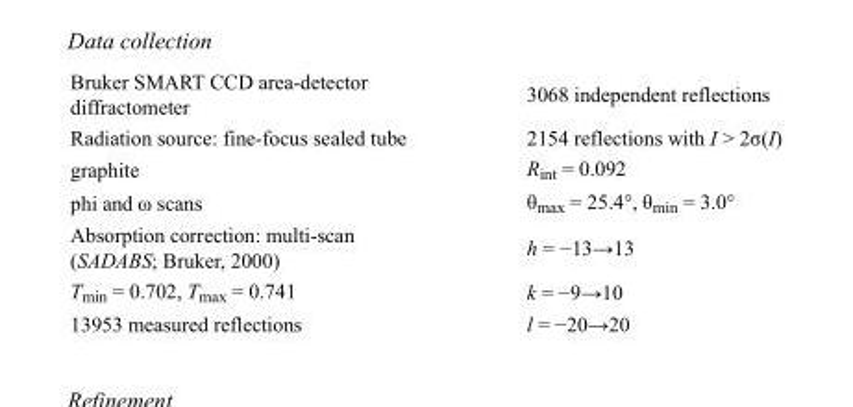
<table><tbody><tr><td>Bruker SMART CCD area-detector diffractometer</td><td>3068 independent reflections</td></tr><tr><td>Radiation source: fine-focus sealed tube</td><td>2154 reflections with I &gt; 2σ(I)</td></tr><tr><td>graphite</td><td>R<sub>int</sub> = 0.092</td></tr><tr><td>phi and ω scans</td><td>θ<sub>max</sub> = 25.4°, θ<sub>min</sub> = 3.0°</td></tr><tr><td>Absorption correction: multi-scan (SADABS; Bruker, 2000)</td><td>h = −13→13</td></tr><tr><td>T<sub>min</sub> = 0.702, T<sub>max</sub> = 0.741</td><td>k = −9→10</td></tr><tr><td>13953 measured reflections</td><td>l = −20→20</td></tr></tbody></table>